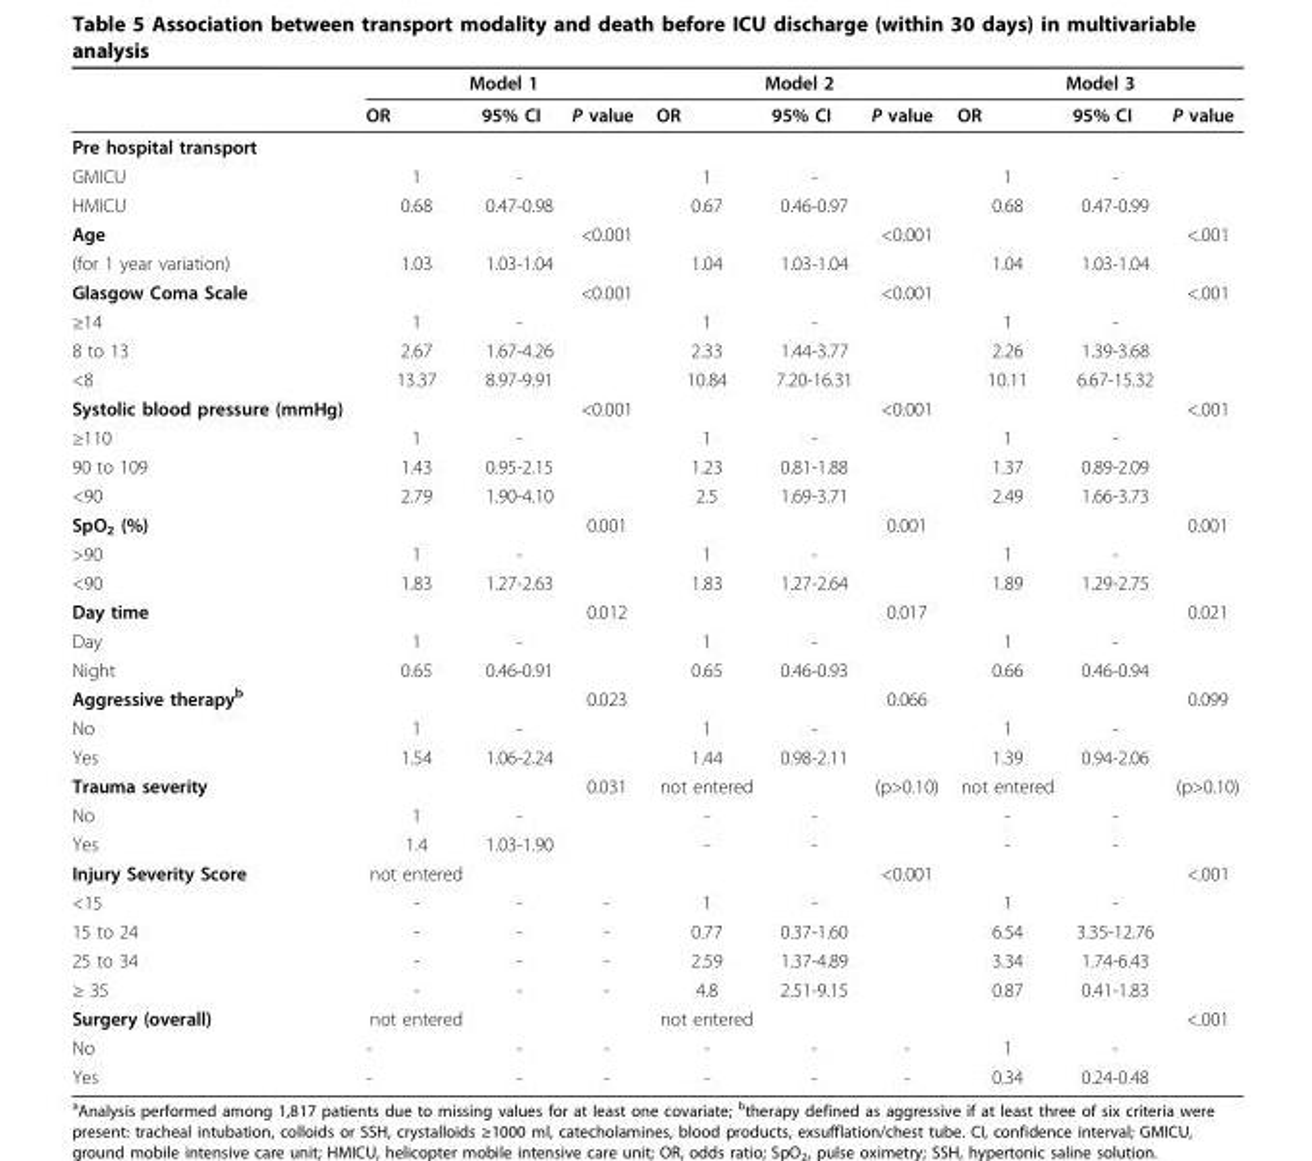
<table><thead><tr><td rowspan="2"></td><td colspan="3">Model 1</td><td colspan="3">Model 2</td><td colspan="3">Model 3</td></tr><tr><td>OR</td><td>95% CI</td><td>P value</td><td>OR</td><td>95% CI</td><td>P value</td><td>OR</td><td>95% CI</td><td>P value</td></tr></thead><tbody><tr><td colspan="10">Pre hospital transport</td></tr><tr><td>GMICU</td><td>1</td><td>-</td><td></td><td>1</td><td>-</td><td></td><td>1</td><td>-</td><td></td></tr><tr><td>HMICU</td><td>0.68</td><td>0.47-0.98</td><td></td><td>0.67</td><td>0.46-0.97</td><td></td><td>0.68</td><td>0.47-0.99</td><td></td></tr><tr><td>Age</td><td></td><td></td><td>&lt;0.001</td><td></td><td></td><td>&lt;0.001</td><td></td><td></td><td>&lt;.001</td></tr><tr><td>(for 1 year variation)</td><td>1.03</td><td>1.03-1.04</td><td></td><td>1.04</td><td>1.03-1.04</td><td></td><td>1.04</td><td>1.03-1.04</td><td></td></tr><tr><td>Glasgow Coma Scale</td><td></td><td></td><td>&lt;0.001</td><td></td><td></td><td>&lt;0.001</td><td></td><td></td><td>&lt;.001</td></tr><tr><td>≥14</td><td>1</td><td>-</td><td></td><td>1</td><td>-</td><td></td><td>1</td><td>-</td><td></td></tr><tr><td>8 to 13</td><td>2.67</td><td>1.67-4.26</td><td></td><td>2.33</td><td>1.44-3.77</td><td></td><td>2.26</td><td>1.39-3.68</td><td></td></tr><tr><td>&lt;8</td><td>13.37</td><td>8.97-9.91</td><td></td><td>10.84</td><td>7.20-16.31</td><td></td><td>10.11</td><td>6.67-15.32</td><td></td></tr><tr><td>Systolic blood pressure (mmHg)</td><td></td><td></td><td>&lt;0.001</td><td></td><td></td><td>&lt;0.001</td><td></td><td></td><td>&lt;.001</td></tr><tr><td>≥110</td><td>1</td><td>-</td><td></td><td>1</td><td>-</td><td></td><td>1</td><td>-</td><td></td></tr><tr><td>90 to 109</td><td>1.43</td><td>0.95-2.15</td><td></td><td>1.23</td><td>0.81-1.88</td><td></td><td>1.37</td><td>0.89-2.09</td><td></td></tr><tr><td>&lt;90</td><td>2.79</td><td>1.90-4.10</td><td></td><td>2.5</td><td>1.69-3.71</td><td></td><td>2.49</td><td>1.66-3.73</td><td></td></tr><tr><td>SpO<sub>2</sub> (%)</td><td></td><td></td><td>0.001</td><td></td><td></td><td>0.001</td><td></td><td></td><td>0.001</td></tr><tr><td>&gt;90</td><td>1</td><td>-</td><td></td><td>1</td><td>-</td><td></td><td>1</td><td>-</td><td></td></tr><tr><td>&lt;90</td><td>1.83</td><td>1.27-2.63</td><td></td><td>1.83</td><td>1.27-2.64</td><td></td><td>1.89</td><td>1.29-2.75</td><td></td></tr><tr><td>Day time</td><td></td><td></td><td>0.012</td><td></td><td></td><td>0.017</td><td></td><td></td><td>0.021</td></tr><tr><td>Day</td><td>1</td><td>-</td><td></td><td>1</td><td>-</td><td></td><td>1</td><td>-</td><td></td></tr><tr><td>Night</td><td>0.65</td><td>0.46-0.91</td><td></td><td>0.65</td><td>0.46-0.93</td><td></td><td>0.66</td><td>0.46-0.94</td><td></td></tr><tr><td>Aggressive therapy<sup>b</sup></td><td></td><td></td><td>0.023</td><td></td><td></td><td>0.066</td><td></td><td></td><td>0.099</td></tr><tr><td>No</td><td>1</td><td>-</td><td></td><td>1</td><td>-</td><td></td><td>1</td><td>-</td><td></td></tr><tr><td>Yes</td><td>1.54</td><td>1.06-2.24</td><td></td><td>1.44</td><td>0.98-2.11</td><td></td><td>1.39</td><td>0.94-2.06</td><td></td></tr><tr><td>Trauma severity</td><td></td><td></td><td>0.031</td><td>not entered</td><td></td><td>(p&gt;0.10)</td><td>not entered</td><td></td><td>(p&gt;0.10)</td></tr><tr><td>No</td><td>1</td><td>-</td><td></td><td>-</td><td>-</td><td></td><td>-</td><td>-</td><td></td></tr><tr><td>Yes</td><td>1.4</td><td>1.03-1.90</td><td></td><td>-</td><td>-</td><td></td><td>-</td><td>-</td><td></td></tr><tr><td>Injury Severity Score</td><td>not entered</td><td></td><td></td><td></td><td></td><td>&lt;0.001</td><td></td><td></td><td>&lt;.001</td></tr><tr><td>&lt;15</td><td>-</td><td>-</td><td>-</td><td>1</td><td>-</td><td></td><td>1</td><td>-</td><td></td></tr><tr><td>15 to 24</td><td>-</td><td>-</td><td>-</td><td>0.77</td><td>0.37-1.60</td><td></td><td>6.54</td><td>3.35-12.76</td><td></td></tr><tr><td>25 to 34</td><td>-</td><td>-</td><td>-</td><td>2.59</td><td>1.37-4.89</td><td></td><td>3.34</td><td>1.74-6.43</td><td></td></tr><tr><td>≥ 35</td><td>-</td><td>-</td><td>-</td><td>4.8</td><td>2.51-9.15</td><td></td><td>0.87</td><td>0.41-1.83</td><td></td></tr><tr><td>Surgery (overall)</td><td>not entered</td><td></td><td></td><td>not entered</td><td></td><td></td><td></td><td></td><td>&lt;.001</td></tr><tr><td>No</td><td>-</td><td>-</td><td>-</td><td>-</td><td>-</td><td>-</td><td>1</td><td>-</td><td></td></tr><tr><td>Yes</td><td>-</td><td>-</td><td>-</td><td>-</td><td>-</td><td>-</td><td>0.34</td><td>0.24-0.48</td><td></td></tr></tbody></table>